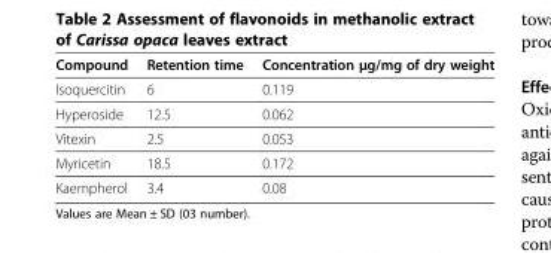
<table><thead><tr><td>Compound</td><td>Retention time</td><td>Concentration μg/mg of dry weight</td></tr></thead><tbody><tr><td>Isoquercitin</td><td>6</td><td>0.119</td></tr><tr><td>Hyperoside</td><td>12.5</td><td>0.062</td></tr><tr><td>Vitexin</td><td>2.5</td><td>0.053</td></tr><tr><td>Myricetin</td><td>18.5</td><td>0.172</td></tr><tr><td>Kaempherol</td><td>3.4</td><td>0.08</td></tr></tbody></table>